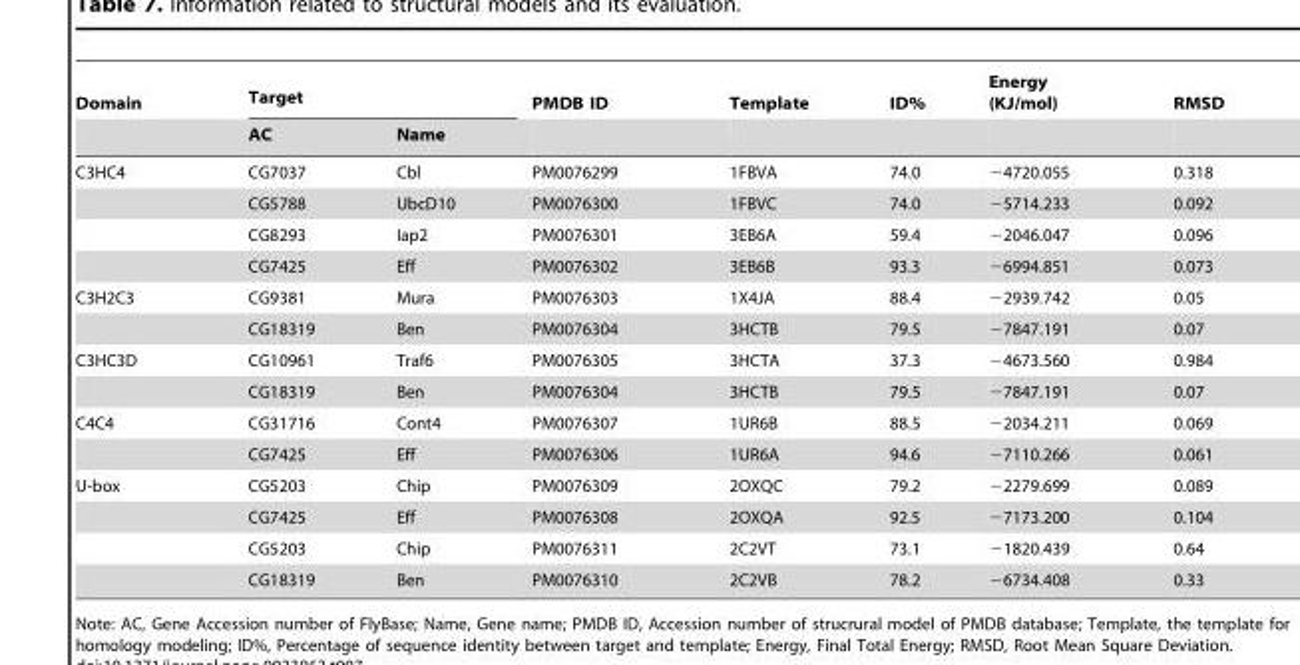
<table><thead><tr><td rowspan="2">Domain</td><td colspan="2">Target</td><td rowspan="2">PMDB ID</td><td rowspan="2">Template</td><td rowspan="2">ID%</td><td rowspan="2">Energy (KJ/mol)</td><td rowspan="2">RMSD</td></tr><tr><td>AC</td><td>Name</td></tr></thead><tbody><tr><td rowspan="4">C3HC4</td><td>CG7037</td><td>Cbl</td><td>PM0076299</td><td>1FBVA</td><td>74.0</td><td>−4720.055</td><td>0.318</td></tr><tr><td>CG5788</td><td>UbcD10</td><td>PM0076300</td><td>1FBVC</td><td>74.0</td><td>−5714.233</td><td>0.092</td></tr><tr><td>CG8293</td><td>Iap2</td><td>PM0076301</td><td>3EB6A</td><td>59.4</td><td>−2046.047</td><td>0.096</td></tr><tr><td>CG7425</td><td>Eff</td><td>PM0076302</td><td>3EB6B</td><td>93.3</td><td>−6994.851</td><td>0.073</td></tr><tr><td rowspan="2">C3H2C3</td><td>CG9381</td><td>Mura</td><td>PM0076303</td><td>1X4JA</td><td>88.4</td><td>−2939.742</td><td>0.05</td></tr><tr><td>CG18319</td><td>Ben</td><td>PM0076304</td><td>3HCTB</td><td>79.5</td><td>−7847.191</td><td>0.07</td></tr><tr><td rowspan="2">C3HC3D</td><td>CG10961</td><td>Traf6</td><td>PM0076305</td><td>3HCTA</td><td>37.3</td><td>−4673.560</td><td>0.984</td></tr><tr><td>CG18319</td><td>Ben</td><td>PM0076304</td><td>3HCTB</td><td>79.5</td><td>−7847.191</td><td>0.07</td></tr><tr><td rowspan="2">C4C4</td><td>CG31716</td><td>Cont4</td><td>PM0076307</td><td>1UR6B</td><td>88.5</td><td>−2034.211</td><td>0.069</td></tr><tr><td>CG7425</td><td>Eff</td><td>PM0076306</td><td>1UR6A</td><td>94.6</td><td>−7110.266</td><td>0.061</td></tr><tr><td rowspan="4">U-box</td><td>CG5203</td><td>Chip</td><td>PM0076309</td><td>2OXQC</td><td>79.2</td><td>−2279.699</td><td>0.089</td></tr><tr><td>CG7425</td><td>Eff</td><td>PM0076308</td><td>2OXQA</td><td>92.5</td><td>−7173.200</td><td>0.104</td></tr><tr><td>CG5203</td><td>Chip</td><td>PM0076311</td><td>2C2VT</td><td>73.1</td><td>−1820.439</td><td>0.64</td></tr><tr><td>CG18319</td><td>Ben</td><td>PM0076310</td><td>2C2VB</td><td>78.2</td><td>−6734.408</td><td>0.33</td></tr></tbody></table>